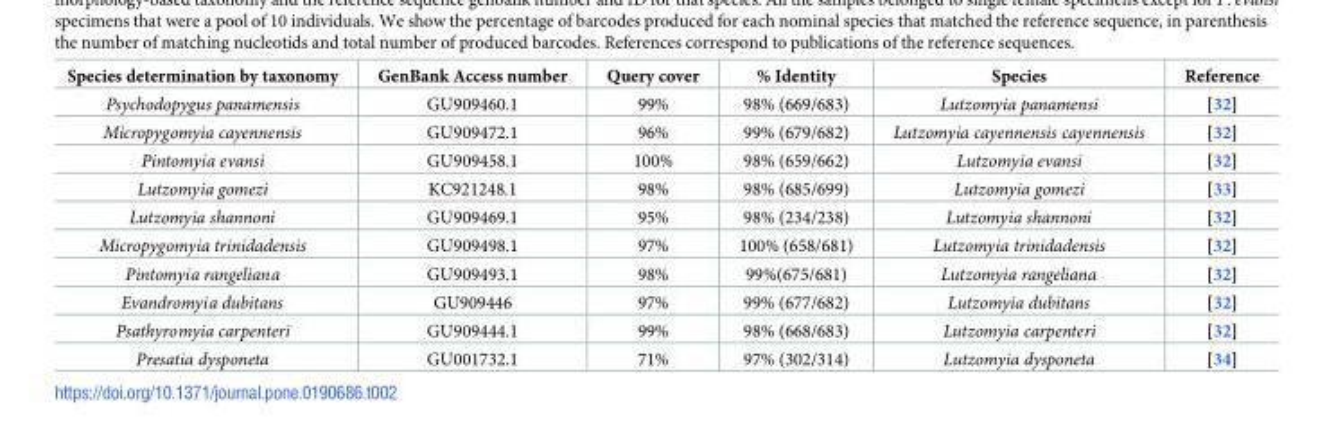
<table><thead><tr><td>Species determination by taxonomy</td><td>GenBank Access number</td><td>Query cover</td><td>% Identity</td><td>Species</td><td>Reference</td></tr></thead><tbody><tr><td>Psychodopygus panamensis</td><td>GU909460.1</td><td>99%</td><td>98% (669/683)</td><td>Lutzomyia panamensi</td><td>[32]</td></tr><tr><td>Micropygomyia cayennensis</td><td>GU909472.1</td><td>96%</td><td>99% (679/682)</td><td>Lutzomyia cayennensis cayennensis</td><td>[32]</td></tr><tr><td>Pintomyia evansi</td><td>GU909458.1</td><td>100%</td><td>98% (659/662)</td><td>Lutzomyia evansi</td><td>[32]</td></tr><tr><td>Lutzomyia gomezi</td><td>KC921248.1</td><td>98%</td><td>98% (685/699)</td><td>Lutzomyia gomezi</td><td>[33]</td></tr><tr><td>Lutzomyia shannoni</td><td>GU909469.1</td><td>95%</td><td>98% (234/238)</td><td>Lutzomyia shannoni</td><td>[32]</td></tr><tr><td>Micropygomyia trinidadensis</td><td>GU909498.1</td><td>97%</td><td>100% (658/681)</td><td>Lutzomyia trinidadensis</td><td>[32]</td></tr><tr><td>Pintomyia rangeliana</td><td>GU909493.1</td><td>98%</td><td>99%(675/681)</td><td>Lutzomyia rangeliana</td><td>[32]</td></tr><tr><td>Evandromyia dubitans</td><td>GU909446</td><td>97%</td><td>99% (677/682)</td><td>Lutzomyia dubitans</td><td>[32]</td></tr><tr><td>Psathyromyia carpenteri</td><td>GU909444.1</td><td>99%</td><td>98% (668/683)</td><td>Lutzomyia carpenteri</td><td>[32]</td></tr><tr><td>Presatia dysponeta</td><td>GU001732.1</td><td>71%</td><td>97% (302/314)</td><td>Lutzomyia dysponeta</td><td>[34]</td></tr></tbody></table>